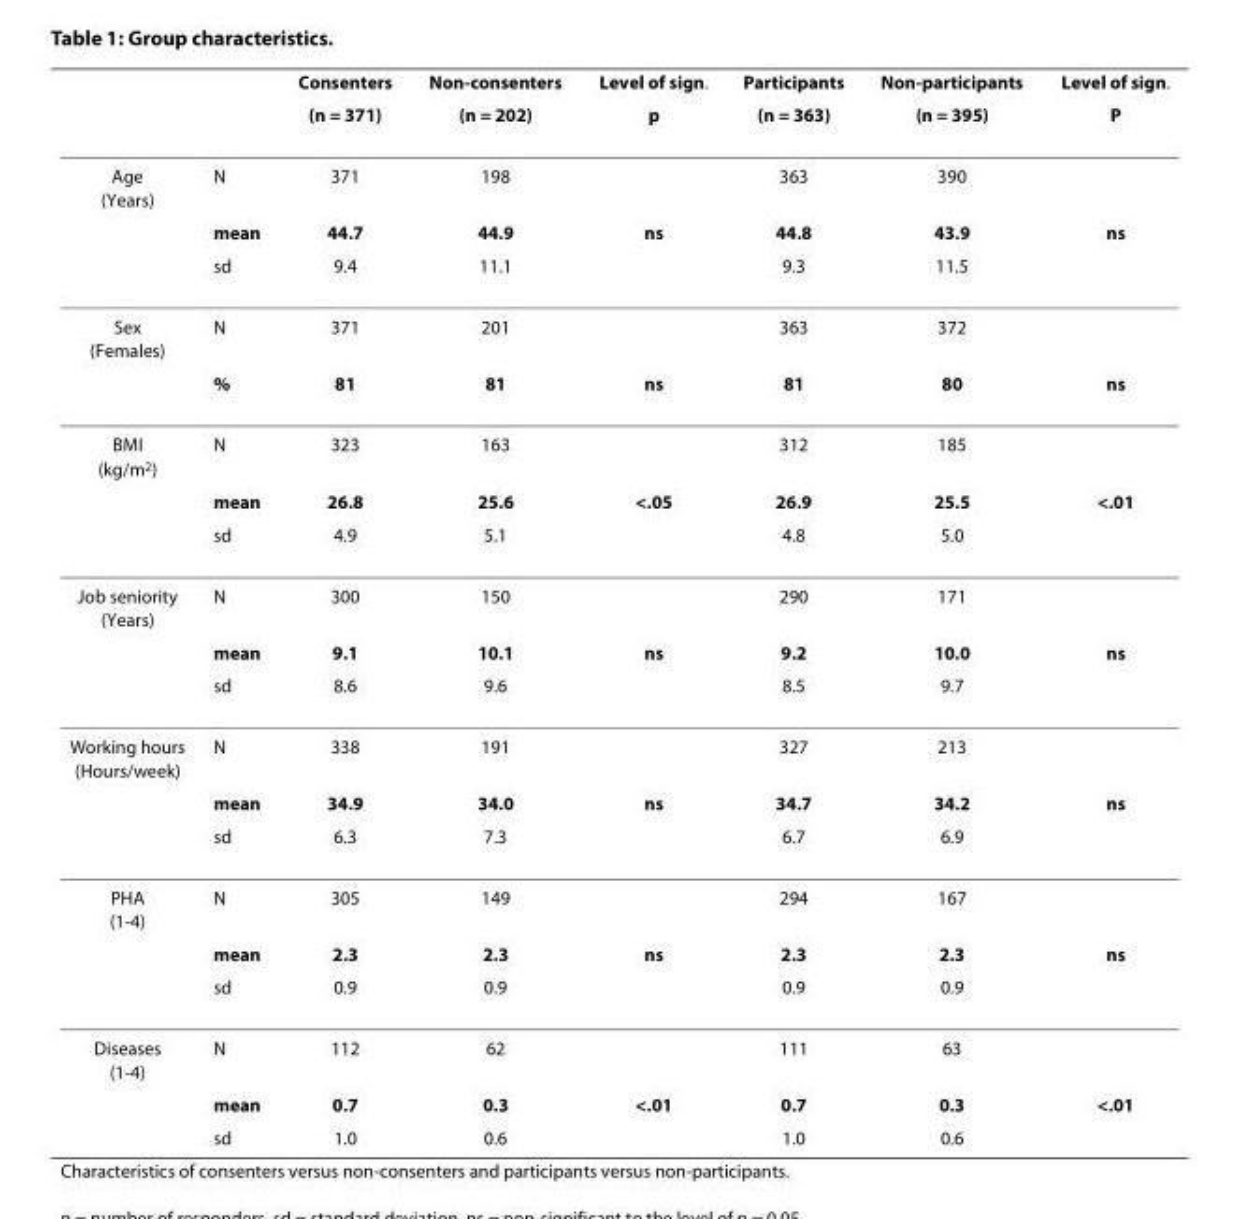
<table><thead><tr><td rowspan="2"></td><td rowspan="2"></td><td rowspan="2">Consenters (n = 371)</td><td rowspan="2">Non-consenters (n = 202)</td><td rowspan="2">Level of sign. p</td><td rowspan="2">Participants (n = 363)</td><td rowspan="2">Non-participants (n = 395)</td><td rowspan="2">Level of sign. P</td></tr><tr></tr></thead><tbody><tr><td rowspan="3">Age (Years)</td><td>N</td><td>371</td><td>198</td><td></td><td>363</td><td>390</td><td></td></tr><tr><td>mean</td><td>44.7</td><td>44.9</td><td>ns</td><td>44.8</td><td>43.9</td><td>ns</td></tr><tr><td>sd</td><td>9.4</td><td>11.1</td><td></td><td>9.3</td><td>11.5</td><td></td></tr><tr><td rowspan="2">Sex (Females)</td><td>N</td><td>371</td><td>201</td><td></td><td>363</td><td>372</td><td></td></tr><tr><td>%</td><td>81</td><td>81</td><td>ns</td><td>81</td><td>80</td><td>ns</td></tr><tr><td rowspan="3">BMI (kg/m<sup>2</sup>)</td><td>N</td><td>323</td><td>163</td><td></td><td>312</td><td>185</td><td></td></tr><tr><td>mean</td><td>26.8</td><td>25.6</td><td>&lt;.05</td><td>26.9</td><td>25.5</td><td>&lt;.01</td></tr><tr><td>sd</td><td>4.9</td><td>5.1</td><td></td><td>4.8</td><td>5.0</td><td></td></tr><tr><td rowspan="3">Job seniority (Years)</td><td>N</td><td>300</td><td>150</td><td></td><td>290</td><td>171</td><td></td></tr><tr><td>mean</td><td>9.1</td><td>10.1</td><td>ns</td><td>9.2</td><td>10.0</td><td>ns</td></tr><tr><td>sd</td><td>8.6</td><td>9.6</td><td></td><td>8.5</td><td>9.7</td><td></td></tr><tr><td rowspan="3">Working hours (Hours/week)</td><td>N</td><td>338</td><td>191</td><td></td><td>327</td><td>213</td><td></td></tr><tr><td>mean</td><td>34.9</td><td>34.0</td><td>ns</td><td>34.7</td><td>34.2</td><td>ns</td></tr><tr><td>sd</td><td>6.3</td><td>7.3</td><td></td><td>6.7</td><td>6.9</td><td></td></tr><tr><td rowspan="3">PHA (1-4)</td><td>N</td><td>305</td><td>149</td><td></td><td>294</td><td>167</td><td></td></tr><tr><td>mean</td><td>2.3</td><td>2.3</td><td>ns</td><td>2.3</td><td>2.3</td><td>ns</td></tr><tr><td>sd</td><td>0.9</td><td>0.9</td><td></td><td>0.9</td><td>0.9</td><td></td></tr><tr><td rowspan="3">Diseases (1-4)</td><td>N</td><td>112</td><td>62</td><td></td><td>111</td><td>63</td><td></td></tr><tr><td>mean</td><td>0.7</td><td>0.3</td><td>&lt;.01</td><td>0.7</td><td>0.3</td><td>&lt;.01</td></tr><tr><td>sd</td><td>1.0</td><td>0.6</td><td></td><td>1.0</td><td>0.6</td><td></td></tr></tbody></table>